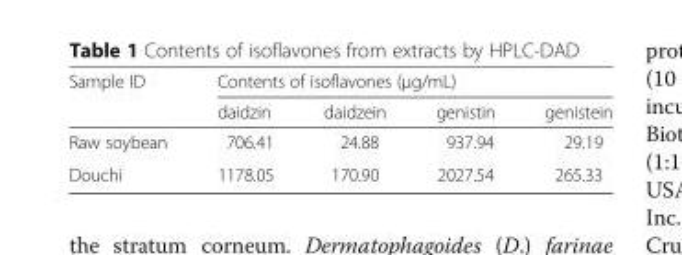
<table><thead><tr><td rowspan="2">Sample ID</td><td colspan="4">Contents of isoflavones (μg/mL)</td></tr><tr><td>daidzin</td><td>daidzein</td><td>genistin</td><td>genistein</td></tr></thead><tbody><tr><td>Raw soybean</td><td>706.41</td><td>24.88</td><td>937.94</td><td>29.19</td></tr><tr><td>Douchi</td><td>1178.05</td><td>170.90</td><td>2027.54</td><td>265.33</td></tr></tbody></table>